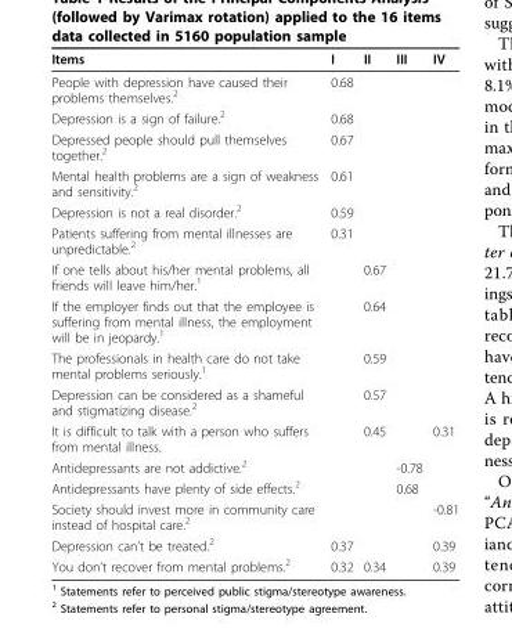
<table><thead><tr><td>Items</td><td>I</td><td>II</td><td>III</td><td>IV</td></tr></thead><tbody><tr><td>People with depression have caused their problems themselves.<sup>2</sup></td><td>0.68</td><td></td><td></td><td></td></tr><tr><td>Depression is a sign of failure.<sup>2</sup></td><td>0.68</td><td></td><td></td><td></td></tr><tr><td>Depressed people should pull themselves together.<sup>2</sup></td><td>0.67</td><td></td><td></td><td></td></tr><tr><td>Mental health problems are a sign of weakness and sensitivity.<sup>2</sup></td><td>0.61</td><td></td><td></td><td></td></tr><tr><td>Depression is not a real disorder.<sup>2</sup></td><td>0.59</td><td></td><td></td><td></td></tr><tr><td>Patients suffering from mental illnesses are unpredictable.<sup>2</sup></td><td>0.31</td><td></td><td></td><td></td></tr><tr><td>If one tells about his/her mental problems, all friends will leave him/her.<sup>1</sup></td><td></td><td>0.67</td><td></td><td></td></tr><tr><td>If the employer finds out that the employee is suffering from mental illness, the employment will be in jeopardy.<sup>1</sup></td><td></td><td>0.64</td><td></td><td></td></tr><tr><td>The professionals in health care do not take mental problems seriously.<sup>1</sup></td><td></td><td>0.59</td><td></td><td></td></tr><tr><td>Depression can be considered as a shameful and stigmatizing disease.<sup>2</sup></td><td></td><td>0.57</td><td></td><td></td></tr><tr><td>It is difficult to talk with a person who suffers from mental illness.</td><td></td><td>0.45</td><td></td><td>0.31</td></tr><tr><td>Antidepressants are not addictive.<sup>2</sup></td><td></td><td></td><td>-0.78</td><td></td></tr><tr><td>Antidepressants have plenty of side effects.<sup>2</sup></td><td></td><td></td><td>0.68</td><td></td></tr><tr><td>Society should invest more in community care instead of hospital care.<sup>2</sup></td><td></td><td></td><td></td><td>-0.81</td></tr><tr><td>Depression can’t be treated.<sup>2</sup></td><td>0.37</td><td></td><td></td><td>0.39</td></tr><tr><td>You don’t recover from mental problems.<sup>2</sup></td><td>0.32</td><td>0.34</td><td></td><td>0.39</td></tr></tbody></table>